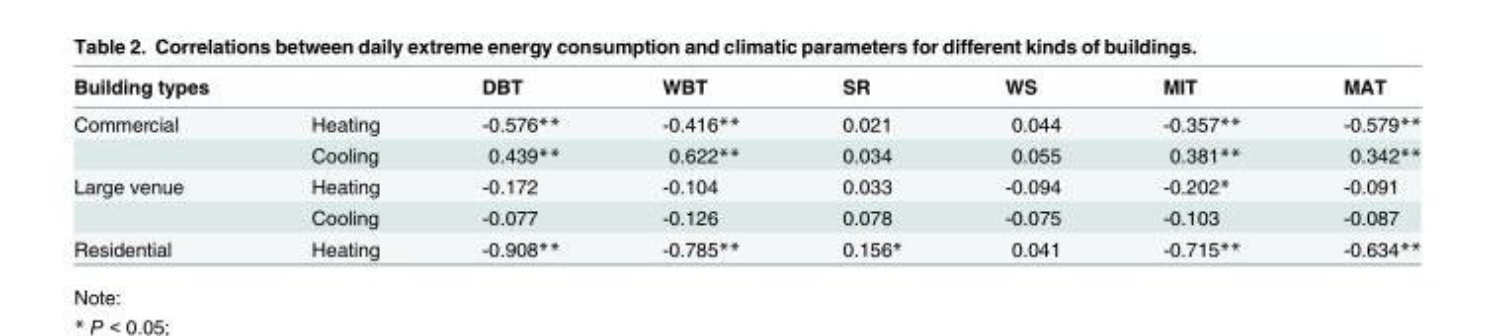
<table><thead><tr><td>Building types</td><td></td><td>DBT</td><td>WBT</td><td>SR</td><td>WS</td><td>MIT</td><td>MAT</td></tr></thead><tbody><tr><td rowspan="2">Commercial</td><td>Heating</td><td>-0.576**</td><td>-0.416**</td><td>0.021</td><td>0.044</td><td>-0.357**</td><td>-0.579**</td></tr><tr><td>Cooling</td><td>0.439**</td><td>0.622**</td><td>0.034</td><td>0.055</td><td>0.381**</td><td>0.342**</td></tr><tr><td rowspan="2">Large venue</td><td>Heating</td><td>-0.172</td><td>-0.104</td><td>0.033</td><td>-0.094</td><td>-0.202*</td><td>-0.091</td></tr><tr><td>Cooling</td><td>-0.077</td><td>-0.126</td><td>0.078</td><td>-0.075</td><td>-0.103</td><td>-0.087</td></tr><tr><td>Residential</td><td>Heating</td><td>-0.908**</td><td>-0.785**</td><td>0.156*</td><td>0.041</td><td>-0.715**</td><td>-0.634**</td></tr></tbody></table>